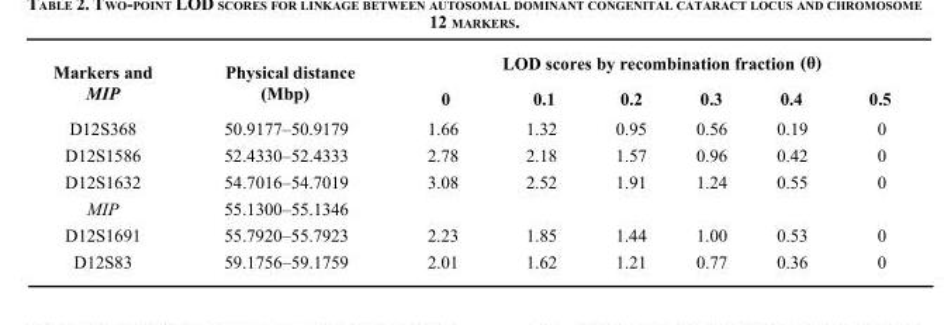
<table><thead><tr><td rowspan="2">Markers and MIP</td><td rowspan="2">Physical distance (Mbp)</td><td colspan="6">LOD scores by recombination fraction (θ)</td></tr><tr><td>0</td><td>0.1</td><td>0.2</td><td>0.3</td><td>0.4</td><td>0.5</td></tr></thead><tbody><tr><td>D12S368</td><td>50.9177–50.9179</td><td>1.66</td><td>1.32</td><td>0.95</td><td>0.56</td><td>0.19</td><td>0</td></tr><tr><td>D12S1586</td><td>52.4330–52.4333</td><td>2.78</td><td>2.18</td><td>1.57</td><td>0.96</td><td>0.42</td><td>0</td></tr><tr><td>D12S1632</td><td>54.7016–54.7019</td><td>3.08</td><td>2.52</td><td>1.91</td><td>1.24</td><td>0.55</td><td>0</td></tr><tr><td>MIP</td><td>55.1300–55.1346</td><td></td><td></td><td></td><td></td><td></td><td></td></tr><tr><td>D12S1691</td><td>55.7920–55.7923</td><td>2.23</td><td>1.85</td><td>1.44</td><td>1.00</td><td>0.53</td><td>0</td></tr><tr><td>D12S83</td><td>59.1756–59.1759</td><td>2.01</td><td>1.62</td><td>1.21</td><td>0.77</td><td>0.36</td><td>0</td></tr></tbody></table>